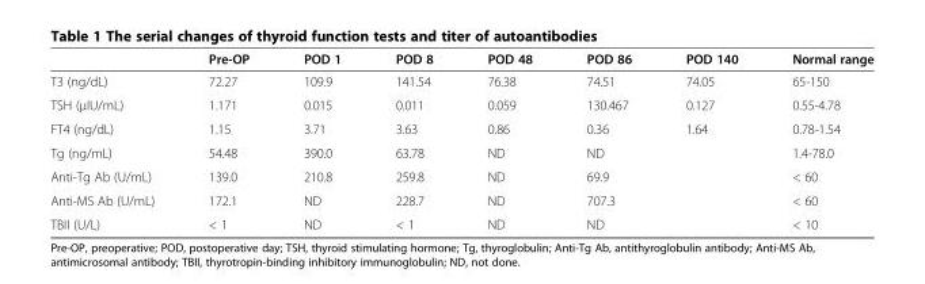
<table><thead><tr><td></td><td>Pre-OP</td><td>POD 1</td><td>POD 8</td><td>POD 48</td><td>POD 86</td><td>POD 140</td><td>Normal range</td></tr></thead><tbody><tr><td>T3 (ng/dL)</td><td>72.27</td><td>109.9</td><td>141.54</td><td>76.38</td><td>74.51</td><td>74.05</td><td>65-150</td></tr><tr><td>TSH (μIU/mL)</td><td>1.171</td><td>0.015</td><td>0.011</td><td>0.059</td><td>130.467</td><td>0.127</td><td>0.55-4.78</td></tr><tr><td>FT4 (ng/dL)</td><td>1.15</td><td>3.71</td><td>3.63</td><td>0.86</td><td>0.36</td><td>1.64</td><td>0.78-1.54</td></tr><tr><td>Tg (ng/mL)</td><td>54.48</td><td>390.0</td><td>63.78</td><td>ND</td><td>ND</td><td></td><td>1.4-78.0</td></tr><tr><td>Anti-Tg Ab (U/mL)</td><td>139.0</td><td>210.8</td><td>259.8</td><td>ND</td><td>69.9</td><td></td><td>&lt; 60</td></tr><tr><td>Anti-MS Ab (U/mL)</td><td>172.1</td><td>ND</td><td>228.7</td><td>ND</td><td>707.3</td><td></td><td>&lt; 60</td></tr><tr><td>TBII (U/L)</td><td>&lt; 1</td><td>ND</td><td>&lt; 1</td><td>ND</td><td>ND</td><td></td><td>&lt; 10</td></tr></tbody></table>